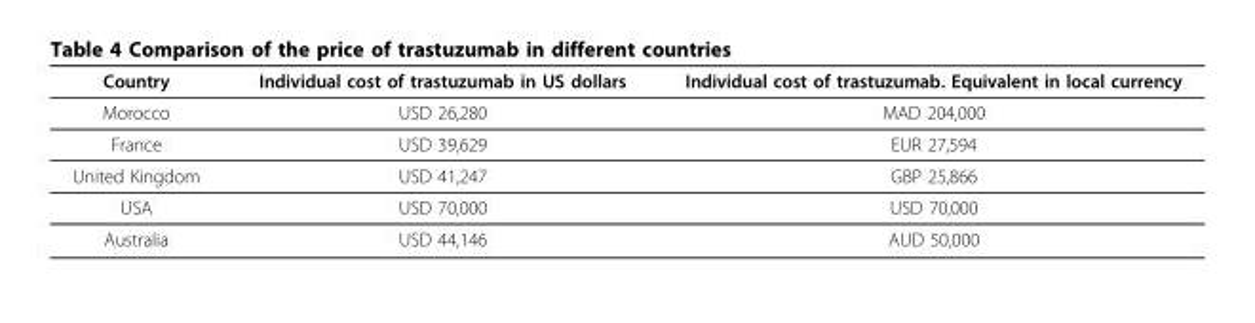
<table><thead><tr><td>Country</td><td>Individual cost of trastuzumab in US dollars</td><td>Individual cost of trastuzumab. Equivalent in local currency</td></tr></thead><tbody><tr><td>Morocco</td><td>USD 26,280</td><td>MAD 204,000</td></tr><tr><td>France</td><td>USD 39,629</td><td>EUR 27,594</td></tr><tr><td>United Kingdom</td><td>USD 41,247</td><td>GBP 25,866</td></tr><tr><td>USA</td><td>USD 70,000</td><td>USD 70,000</td></tr><tr><td>Australia</td><td>USD 44,146</td><td>AUD 50,000</td></tr></tbody></table>